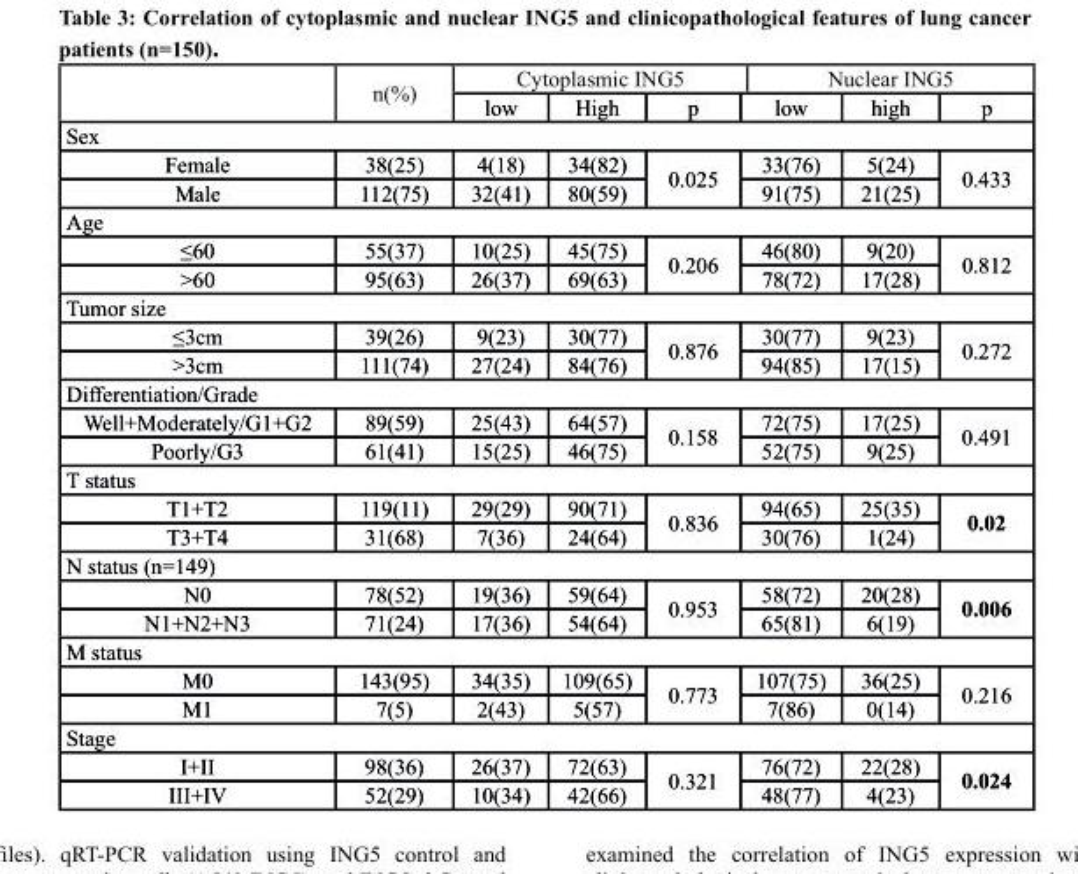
<table><thead><tr><td rowspan="2"></td><td rowspan="2">n(%)</td><td colspan="3">Cytoplasmic ING5</td><td colspan="3">Nuclear ING5</td></tr><tr><td>low</td><td>High</td><td>p</td><td>low</td><td>high</td><td>p</td></tr></thead><tbody><tr><td colspan="8">Sex</td></tr><tr><td>Female</td><td>38(25)</td><td>4(18)</td><td>34(82)</td><td rowspan="2">0.025</td><td>33(76)</td><td>5(24)</td><td rowspan="2">0.433</td></tr><tr><td>Male</td><td>112(75)</td><td>32(41)</td><td>80(59)</td><td>91(75)</td><td>21(25)</td></tr><tr><td colspan="8">Age</td></tr><tr><td>≤60</td><td>55(37)</td><td>10(25)</td><td>45(75)</td><td rowspan="2">0.206</td><td>46(80)</td><td>9(20)</td><td rowspan="2">0.812</td></tr><tr><td>&gt;60</td><td>95(63)</td><td>26(37)</td><td>69(63)</td><td>78(72)</td><td>17(28)</td></tr><tr><td colspan="8">Tumor size</td></tr><tr><td>≤3cm</td><td>39(26)</td><td>9(23)</td><td>30(77)</td><td rowspan="2">0.876</td><td>30(77)</td><td>9(23)</td><td rowspan="2">0.272</td></tr><tr><td>&gt;3cm</td><td>111(74)</td><td>27(24)</td><td>84(76)</td><td>94(85)</td><td>17(15)</td></tr><tr><td colspan="8">Differentiation/Grade</td></tr><tr><td>Well+Moderately/G1+G2</td><td>89(59)</td><td>25(43)</td><td>64(57)</td><td rowspan="2">0.158</td><td>72(75)</td><td>17(25)</td><td rowspan="2">0.491</td></tr><tr><td>Poorly/G3</td><td>61(41)</td><td>15(25)</td><td>46(75)</td><td>52(75)</td><td>9(25)</td></tr><tr><td colspan="8">T status</td></tr><tr><td>T1+T2</td><td>119(11)</td><td>29(29)</td><td>90(71)</td><td rowspan="2">0.836</td><td>94(65)</td><td>25(35)</td><td rowspan="2">0.02</td></tr><tr><td>T3+T4</td><td>31(68)</td><td>7(36)</td><td>24(64)</td><td>30(76)</td><td>1(24)</td></tr><tr><td colspan="8">N status (n=149)</td></tr><tr><td>N0</td><td>78(52)</td><td>19(36)</td><td>59(64)</td><td rowspan="2">0.953</td><td>58(72)</td><td>20(28)</td><td rowspan="2">0.006</td></tr><tr><td>N1+N2+N3</td><td>71(24)</td><td>17(36)</td><td>54(64)</td><td>65(81)</td><td>6(19)</td></tr><tr><td colspan="8">M status</td></tr><tr><td>M0</td><td>143(95)</td><td>34(35)</td><td>109(65)</td><td rowspan="2">0.773</td><td>107(75)</td><td>36(25)</td><td rowspan="2">0.216</td></tr><tr><td>M1</td><td>7(5)</td><td>2(43)</td><td>5(57)</td><td>7(86)</td><td>0(14)</td></tr><tr><td colspan="8">Stage</td></tr><tr><td>I+II</td><td>98(36)</td><td>26(37)</td><td>72(63)</td><td rowspan="2">0.321</td><td>76(72)</td><td>22(28)</td><td rowspan="2">0.024</td></tr><tr><td>III+IV</td><td>52(29)</td><td>10(34)</td><td>42(66)</td><td>48(77)</td><td>4(23)</td></tr></tbody></table>